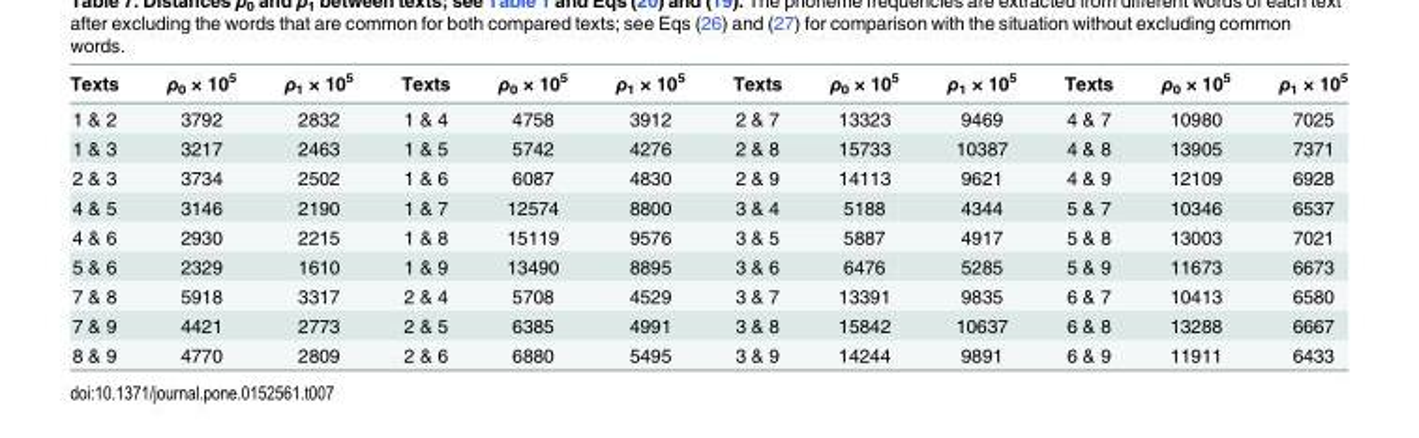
<table><thead><tr><td>Texts</td><td>ρ<sub>0</sub> × 10<sup>5</sup></td><td>ρ<sub>1</sub> × 10<sup>5</sup></td><td>Texts</td><td>ρ<sub>0</sub> × 10<sup>5</sup></td><td>ρ<sub>1</sub> × 10<sup>5</sup></td><td>Texts</td><td>ρ<sub>0</sub> × 10<sup>5</sup></td><td>ρ<sub>1</sub> × 10<sup>5</sup></td><td>Texts</td><td>ρ<sub>0</sub> × 10<sup>5</sup></td><td>ρ<sub>1</sub> × 10<sup>5</sup></td></tr></thead><tbody><tr><td>1 &amp; 2</td><td>3792</td><td>2832</td><td>1 &amp; 4</td><td>4758</td><td>3912</td><td>2 &amp; 7</td><td>13323</td><td>9469</td><td>4 &amp; 7</td><td>10980</td><td>7025</td></tr><tr><td>1 &amp; 3</td><td>3217</td><td>2463</td><td>1 &amp; 5</td><td>5742</td><td>4276</td><td>2 &amp; 8</td><td>15733</td><td>10387</td><td>4 &amp; 8</td><td>13905</td><td>7371</td></tr><tr><td>2 &amp; 3</td><td>3734</td><td>2502</td><td>1 &amp; 6</td><td>6087</td><td>4830</td><td>2 &amp; 9</td><td>14113</td><td>9621</td><td>4 &amp; 9</td><td>12109</td><td>6928</td></tr><tr><td>4 &amp; 5</td><td>3146</td><td>2190</td><td>1 &amp; 7</td><td>12574</td><td>8800</td><td>3 &amp; 4</td><td>5188</td><td>4344</td><td>5 &amp; 7</td><td>10346</td><td>6537</td></tr><tr><td>4 &amp; 6</td><td>2930</td><td>2215</td><td>1 &amp; 8</td><td>15119</td><td>9576</td><td>3 &amp; 5</td><td>5887</td><td>4917</td><td>5 &amp; 8</td><td>13003</td><td>7021</td></tr><tr><td>5 &amp; 6</td><td>2329</td><td>1610</td><td>1 &amp; 9</td><td>13490</td><td>8895</td><td>3 &amp; 6</td><td>6476</td><td>5285</td><td>5 &amp; 9</td><td>11673</td><td>6673</td></tr><tr><td>7 &amp; 8</td><td>5918</td><td>3317</td><td>2 &amp; 4</td><td>5708</td><td>4529</td><td>3 &amp; 7</td><td>13391</td><td>9835</td><td>6 &amp; 7</td><td>10413</td><td>6580</td></tr><tr><td>7 &amp; 9</td><td>4421</td><td>2773</td><td>2 &amp; 5</td><td>6385</td><td>4991</td><td>3 &amp; 8</td><td>15842</td><td>10637</td><td>6 &amp; 8</td><td>13288</td><td>6667</td></tr><tr><td>8 &amp; 9</td><td>4770</td><td>2809</td><td>2 &amp; 6</td><td>6880</td><td>5495</td><td>3 &amp; 9</td><td>14244</td><td>9891</td><td>6 &amp; 9</td><td>11911</td><td>6433</td></tr></tbody></table>